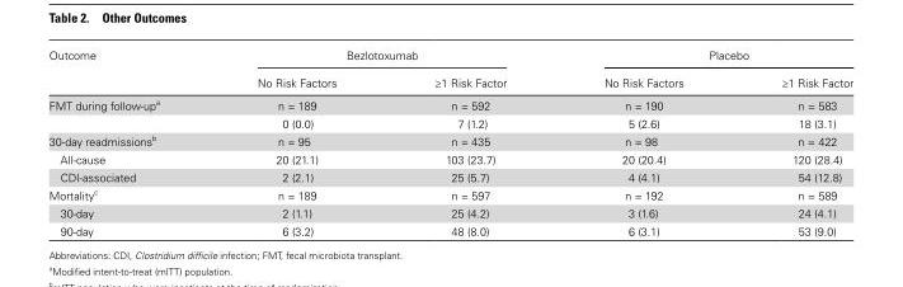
<table><thead><tr><td rowspan="2">Outcome</td><td colspan="2">Bezlotoxumab</td><td colspan="2">Placebo</td></tr><tr><td>No Risk Factors</td><td>≥1 Risk Factor</td><td>No Risk Factors</td><td>≥1 Risk Factor</td></tr></thead><tbody><tr><td rowspan="2">FMT during follow-up<sup>a</sup></td><td>n = 189</td><td>n = 592</td><td>n = 190</td><td>n = 583</td></tr><tr><td>0 (0.0)</td><td>7 (1.2)</td><td>5 (2.6)</td><td>18 (3.1)</td></tr><tr><td>30-day readmissions<sup>b</sup></td><td>n = 95</td><td>n = 435</td><td>n = 98</td><td>n = 422</td></tr><tr><td>All-cause</td><td>20 (21.1)</td><td>103 (23.7)</td><td>20 (20.4)</td><td>120 (28.4)</td></tr><tr><td>CDI-associated</td><td>2 (2.1)</td><td>25 (5.7)</td><td>4 (4.1)</td><td>54 (12.8)</td></tr><tr><td>Mortality<sup>c</sup></td><td>n = 189</td><td>n = 597</td><td>n = 192</td><td>n = 589</td></tr><tr><td>30-day</td><td>2 (1.1)</td><td>25 (4.2)</td><td>3 (1.6)</td><td>24 (4.1)</td></tr><tr><td>90-day</td><td>6 (3.2)</td><td>48 (8.0)</td><td>6 (3.1)</td><td>53 (9.0)</td></tr></tbody></table>